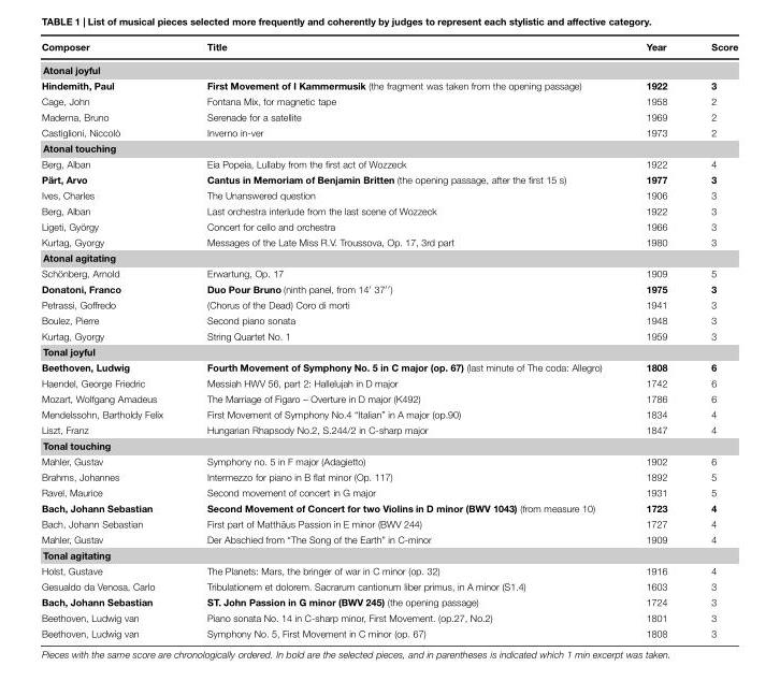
<table><thead><tr><td>Composer</td><td>Title</td><td>Year</td><td>Score</td></tr></thead><tbody><tr><td colspan="4">Atonal joyful</td></tr><tr><td>Hindemith, Paul</td><td>First Movement of I Kammermusik (the fragment was taken from the opening passage)</td><td>1922</td><td>3</td></tr><tr><td>Cage, John</td><td>Fontana Mix, for magnetic tape</td><td>1958</td><td>2</td></tr><tr><td>Maderna, Bruno</td><td>Serenade for a satellite</td><td>1969</td><td>2</td></tr><tr><td>Castiglioni, Niccolò</td><td>Inverno in-ver</td><td>1973</td><td>2</td></tr><tr><td colspan="4">Atonal touching</td></tr><tr><td>Berg, Alban</td><td>Eia Popeia, Lullaby from the first act of Wozzeck</td><td>1922</td><td>4</td></tr><tr><td>Pärt, Arvo</td><td>Cantus in Memoriam of Benjamin Britten (the opening passage, after the first 15 s)</td><td>1977</td><td>3</td></tr><tr><td>Ives, Charles</td><td>The Unanswered question</td><td>1906</td><td>3</td></tr><tr><td>Berg, Alban</td><td>Last orchestra interlude from the last scene of Wozzeck</td><td>1922</td><td>3</td></tr><tr><td>Ligeti, György</td><td>Concert for cello and orchestra</td><td>1966</td><td>3</td></tr><tr><td>Kurtag, Gyorgy</td><td>Messages of the Late Miss R.V. Troussova, Op. 17, 3rd part</td><td>1980</td><td>3</td></tr><tr><td colspan="4">Atonal agitating</td></tr><tr><td>Schönberg, Arnold</td><td>Erwartung, Op. 17</td><td>1909</td><td>5</td></tr><tr><td>Donatoni, Franco</td><td>Duo Pour Bruno (ninth panel, from 14′ 37′′)</td><td>1975</td><td>3</td></tr><tr><td>Petrassi, Goffredo</td><td>(Chorus of the Dead) Coro di morti</td><td>1941</td><td>3</td></tr><tr><td>Boulez, Pierre</td><td>Second piano sonata</td><td>1948</td><td>3</td></tr><tr><td>Kurtag, Gyorgy</td><td>String Quartet No. 1</td><td>1959</td><td>3</td></tr><tr><td colspan="4">Tonal joyful</td></tr><tr><td>Beethoven, Ludwig</td><td>Fourth Movement of Symphony No. 5 in C major (op. 67) (last minute of The coda: Allegro)</td><td>1808</td><td>6</td></tr><tr><td>Haendel, George Friedric</td><td>Messiah HWV 56, part 2: Hallelujah in D major</td><td>1742</td><td>6</td></tr><tr><td>Mozart, Wolfgang Amadeus</td><td>The Marriage of Figaro – Overture in D major (K492)</td><td>1786</td><td>6</td></tr><tr><td>Mendelssohn, Bartholdy Felix</td><td>First Movement of Symphony No.4 “Italian” in A major (op.90)</td><td>1834</td><td>4</td></tr><tr><td>Liszt, Franz</td><td>Hungarian Rhapsody No.2, S.244/2 in C-sharp major</td><td>1847</td><td>4</td></tr><tr><td colspan="4">Tonal touching</td></tr><tr><td>Mahler, Gustav</td><td>Symphony no. 5 in F major (Adagietto)</td><td>1902</td><td>6</td></tr><tr><td>Brahms, Johannes</td><td>Intermezzo for piano in B flat minor (Op. 117)</td><td>1892</td><td>5</td></tr><tr><td>Ravel, Maurice</td><td>Second movement of concert in G major</td><td>1931</td><td>5</td></tr><tr><td>Bach, Johann Sebastian</td><td>Second Movement of Concert for two Violins in D minor (BWV 1043) (from measure 10)</td><td>1723</td><td>4</td></tr><tr><td>Bach, Johann Sebastian</td><td>First part of Matthäus Passion in E minor (BWV 244)</td><td>1727</td><td>4</td></tr><tr><td>Mahler, Gustav</td><td>Der Abschied from “The Song of the Earth” in C-minor</td><td>1909</td><td>4</td></tr><tr><td colspan="4">Tonal agitating</td></tr><tr><td>Holst, Gustave</td><td>The Planets: Mars, the bringer of war in C minor (op. 32)</td><td>1916</td><td>4</td></tr><tr><td>Gesualdo da Venosa, Carlo</td><td>Tribulationem et dolorem. Sacrarum cantionum liber primus, in A minor (S1.4)</td><td>1603</td><td>3</td></tr><tr><td>Bach, Johann Sebastian</td><td>ST. John Passion in G minor (BWV 245) (the opening passage)</td><td>1724</td><td>3</td></tr><tr><td>Beethoven, Ludwig van</td><td>Piano sonata No. 14 in C-sharp minor, First Movement. (op.27, No.2)</td><td>1801</td><td>3</td></tr><tr><td>Beethoven, Ludwig van</td><td>Symphony No. 5, First Movement in C minor (op. 67)</td><td>1808</td><td>3</td></tr></tbody></table>